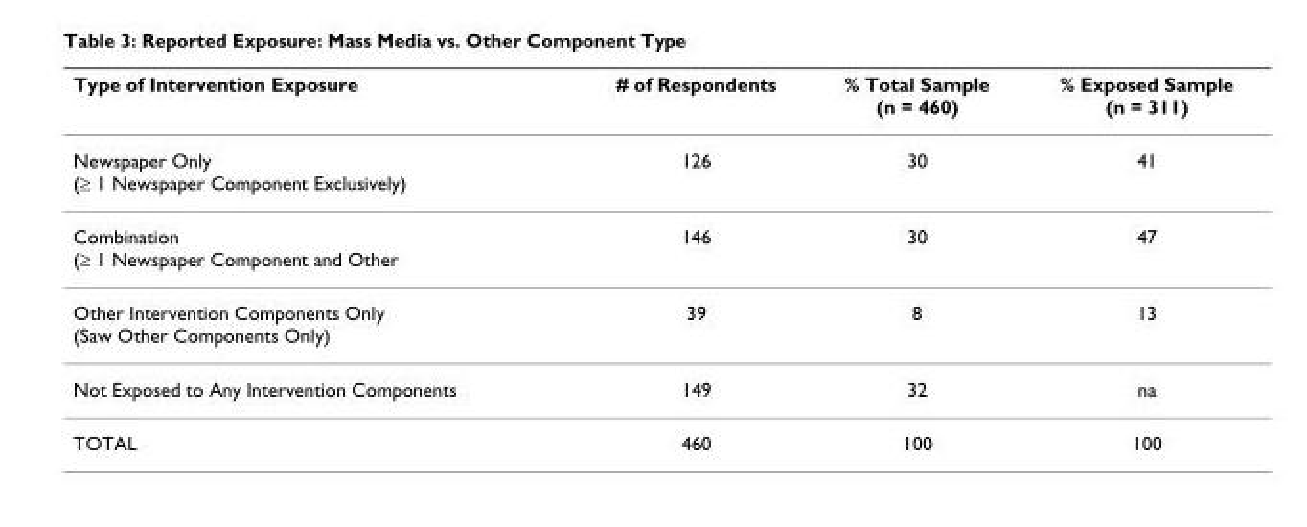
<table><thead><tr><td>Type of Intervention Exposure</td><td># of Respondents</td><td>% Total Sample (n = 460)</td><td>% Exposed Sample (n = 311)</td></tr></thead><tbody><tr><td>Newspaper Only (≥ 1 Newspaper Component Exclusively)</td><td>126</td><td>30</td><td>41</td></tr><tr><td>Combination (≥ 1 Newspaper Component and Other</td><td>146</td><td>30</td><td>47</td></tr><tr><td>Other Intervention Components Only (Saw Other Components Only)</td><td>39</td><td>8</td><td>13</td></tr><tr><td>Not Exposed to Any Intervention Components</td><td>149</td><td>32</td><td>na</td></tr><tr><td>TOTAL</td><td>460</td><td>100</td><td>100</td></tr></tbody></table>